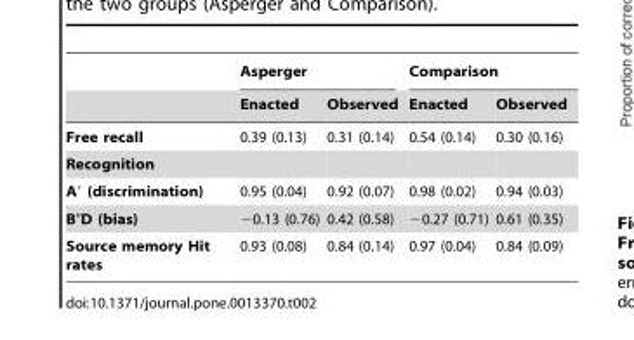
<table><thead><tr><td rowspan="2"></td><td colspan="2">Asperger</td><td colspan="2">Comparison</td></tr><tr><td>Enacted</td><td>Observed</td><td>Enacted</td><td>Observed</td></tr></thead><tbody><tr><td>Free recall</td><td>0.39 (0.13)</td><td>0.31 (0.14)</td><td>0.54 (0.14)</td><td>0.30 (0.16)</td></tr><tr><td colspan="5">Recognition</td></tr><tr><td>A′ (discrimination)</td><td>0.95 (0.04)</td><td>0.92 (0.07)</td><td>0.98 (0.02)</td><td>0.94 (0.03)</td></tr><tr><td>B″D (bias)</td><td>−0.13 (0.76)</td><td>0.42 (0.58)</td><td>−0.27 (0.71)</td><td>0.61 (0.35)</td></tr><tr><td>Source memory Hit rates</td><td>0.93 (0.08)</td><td>0.84 (0.14)</td><td>0.97 (0.04)</td><td>0.84 (0.09)</td></tr></tbody></table>